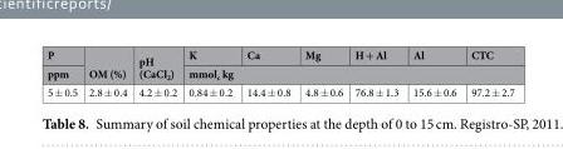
<table><thead><tr><td rowspan="2">P ppm</td><td rowspan="2">OM (%)</td><td rowspan="2">pH (CaCl<sub>2</sub>)</td><td>K</td><td>Ca</td><td>Mg</td><td>H + Al</td><td>Al</td><td>CTC</td></tr><tr><td colspan="6">mmol<sub>c</sub> kg</td></tr></thead><tbody><tr><td>5 ± 0.5</td><td>2.8 ± 0.4</td><td>4.2 ± 0.2</td><td>0.84 ± 0.2</td><td>14.4 ± 0.8</td><td>4.8 ± 0.6</td><td>76.8 ± 1.3</td><td>15.6 ± 0.6</td><td>97.2 ± 2.7</td></tr></tbody></table>